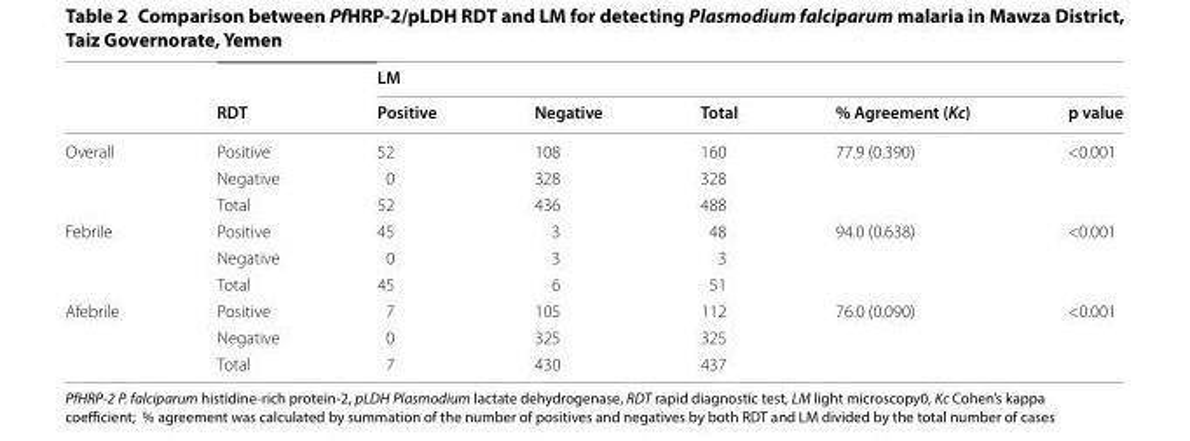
<table><thead><tr><td rowspan="2"></td><td rowspan="2">RDT</td><td colspan="5">LM</td></tr><tr><td>Positive</td><td>Negative</td><td>Total</td><td>% Agreement (Kc)</td><td>p value</td></tr></thead><tbody><tr><td rowspan="3">Overall</td><td>Positive</td><td>52</td><td>108</td><td>160</td><td>77.9 (0.390)</td><td>&lt;0.001</td></tr><tr><td>Negative</td><td>0</td><td>328</td><td>328</td><td></td><td></td></tr><tr><td>Total</td><td>52</td><td>436</td><td>488</td><td></td><td></td></tr><tr><td rowspan="3">Febrile</td><td>Positive</td><td>45</td><td>3</td><td>48</td><td>94.0 (0.638)</td><td>&lt;0.001</td></tr><tr><td>Negative</td><td>0</td><td>3</td><td>3</td><td></td><td></td></tr><tr><td>Total</td><td>45</td><td>6</td><td>51</td><td></td><td></td></tr><tr><td rowspan="3">Afebrile</td><td>Positive</td><td>7</td><td>105</td><td>112</td><td>76.0 (0.090)</td><td>&lt;0.001</td></tr><tr><td>Negative</td><td>0</td><td>325</td><td>325</td><td></td><td></td></tr><tr><td>Total</td><td>7</td><td>430</td><td>437</td><td></td><td></td></tr></tbody></table>